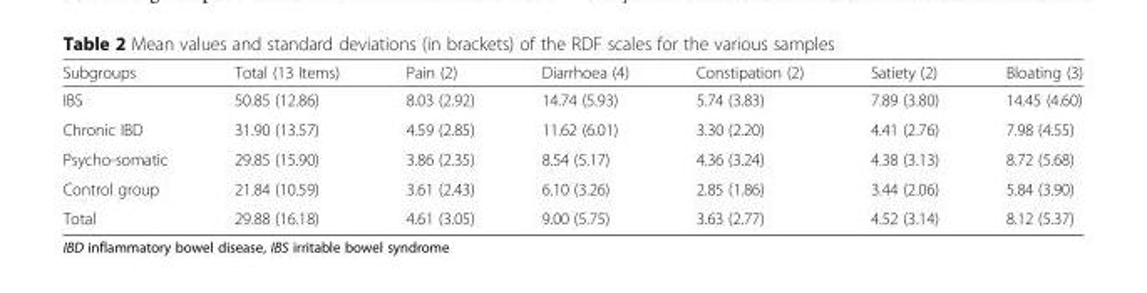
<table><thead><tr><td>Subgroups</td><td>Total (13 Items)</td><td>Pain (2)</td><td>Diarrhoea (4)</td><td>Constipation (2)</td><td>Satiety (2)</td><td>Bloating (3)</td></tr></thead><tbody><tr><td>IBS</td><td>50.85 (12.86)</td><td>8.03 (2.92)</td><td>14.74 (5.93)</td><td>5.74 (3.83)</td><td>7.89 (3.80)</td><td>14.45 (4.60)</td></tr><tr><td>Chronic IBD</td><td>31.90 (13.57)</td><td>4.59 (2.85)</td><td>11.62 (6.01)</td><td>3.30 (2.20)</td><td>4.41 (2.76)</td><td>7.98 (4.55)</td></tr><tr><td>Psycho-somatic</td><td>29.85 (15.90)</td><td>3.86 (2.35)</td><td>8.54 (5.17)</td><td>4.36 (3.24)</td><td>4.38 (3.13)</td><td>8.72 (5.68)</td></tr><tr><td>Control group</td><td>21.84 (10.59)</td><td>3.61 (2.43)</td><td>6.10 (3.26)</td><td>2.85 (1.86)</td><td>3.44 (2.06)</td><td>5.84 (3.90)</td></tr><tr><td>Total</td><td>29.88 (16.18)</td><td>4.61 (3.05)</td><td>9.00 (5.75)</td><td>3.63 (2.77)</td><td>4.52 (3.14)</td><td>8.12 (5.37)</td></tr></tbody></table>